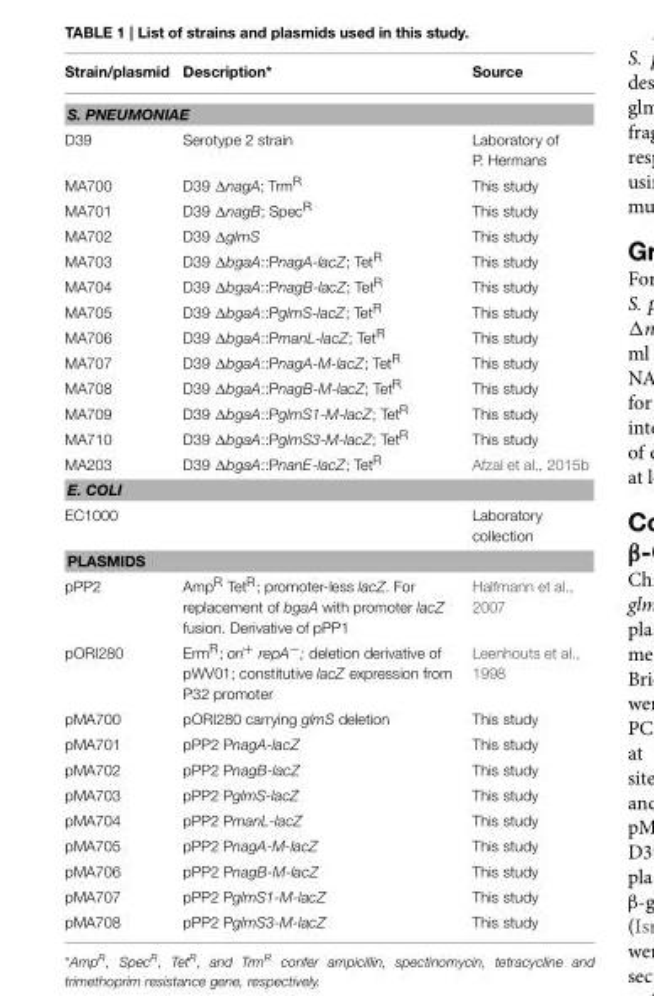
<table><thead><tr><td>Strain/plasmid</td><td>Description*</td><td>Source</td></tr></thead><tbody><tr><td colspan="3">S. PNEUMONIAE</td></tr><tr><td>D39</td><td>Serotype 2 strain</td><td>Laboratory of P. Hermans</td></tr><tr><td>MA700</td><td>D39 ΔnagA; Trm<sup>R</sup></td><td>This study</td></tr><tr><td>MA701</td><td>D39 ΔnagB; Spec<sup>R</sup></td><td>This study</td></tr><tr><td>MA702</td><td>D39 ΔglmS</td><td>This study</td></tr><tr><td>MA703</td><td>D39 ΔbgaA::PnagA-lacZ; Tet<sup>R</sup></td><td>This study</td></tr><tr><td>MA704</td><td>D39 ΔbgaA::PnagB-lacZ; Tet<sup>R</sup></td><td>This study</td></tr><tr><td>MA705</td><td>D39 ΔbgaA::PglmS-lacZ; Tet<sup>R</sup></td><td>This study</td></tr><tr><td>MA706</td><td>D39 ΔbgaA::PmanL-lacZ; Tet<sup>R</sup></td><td>This study</td></tr><tr><td>MA707</td><td>D39 ΔbgaA::PnagA-M-lacZ; Tet<sup>R</sup></td><td>This study</td></tr><tr><td>MA708</td><td>D39 ΔbgaA::PnagB-M-lacZ; Tet<sup>R</sup></td><td>This study</td></tr><tr><td>MA709</td><td>D39 ΔbgaA::PglmS1-M-lacZ; Tet<sup>R</sup></td><td>This study</td></tr><tr><td>MA710</td><td>D39 ΔbgaA::PglmS3-M-lacZ; Tet<sup>R</sup></td><td>This study</td></tr><tr><td>MA203</td><td>D39 ΔbgaA::PnanE-lacZ; Tet<sup>R</sup></td><td>Afzal et al., 2015b</td></tr><tr><td colspan="3">E. COLI</td></tr><tr><td>EC1000</td><td></td><td>Laboratory collection</td></tr><tr><td colspan="3">PLASMIDS</td></tr><tr><td>pPP2</td><td>Amp<sup>R</sup> Tet<sup>R</sup>; promoter-less lacZ. For replacement of bgaA with promoter lacZ fusion. Derivative of pPP1</td><td>Halfmann et al., 2007</td></tr><tr><td>pORI280</td><td>Erm<sup>R</sup>; ori<sup>+</sup> repA<sup>−</sup>; deletion derivative of pWV01; constitutive lacZ expression from P32 promoter</td><td>Leenhouts et al., 1998</td></tr><tr><td>pMA700</td><td>pORI280 carrying glmS deletion</td><td>This study</td></tr><tr><td>pMA701</td><td>pPP2 PnagA-lacZ</td><td>This study</td></tr><tr><td>pMA702</td><td>pPP2 PnagB-lacZ</td><td>This study</td></tr><tr><td>pMA703</td><td>pPP2 PglmS-lacZ</td><td>This study</td></tr><tr><td>pMA704</td><td>pPP2 PmanL-lacZ</td><td>This study</td></tr><tr><td>pMA705</td><td>pPP2 PnagA-M-lacZ</td><td>This study</td></tr><tr><td>pMA706</td><td>pPP2 PnagB-M-lacZ</td><td>This study</td></tr><tr><td>pMA707</td><td>pPP2 PglmS1-M-lacZ</td><td>This study</td></tr><tr><td>pMA708</td><td>pPP2 PglmS3-M-lacZ</td><td>This study</td></tr></tbody></table>